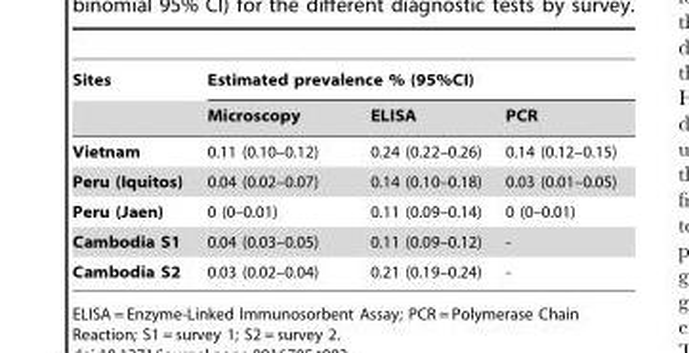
<table><thead><tr><td rowspan="2">Sites</td><td colspan="3">Estimated prevalence % (95%CI)</td></tr><tr><td>Microscopy</td><td>ELISA</td><td>PCR</td></tr></thead><tbody><tr><td>Vietnam</td><td>0.11 (0.10–0.12)</td><td>0.24 (0.22–0.26)</td><td>0.14 (0.12–0.15)</td></tr><tr><td>Peru (Iquitos)</td><td>0.04 (0.02–0.07)</td><td>0.14 (0.10–0.18)</td><td>0.03 (0.01–0.05)</td></tr><tr><td>Peru (Jaen)</td><td>0 (0–0.01)</td><td>0.11 (0.09–0.14)</td><td>0 (0–0.01)</td></tr><tr><td>Cambodia S1</td><td>0.04 (0.03–0.05)</td><td>0.11 (0.09–0.12)</td><td>-</td></tr><tr><td>Cambodia S2</td><td>0.03 (0.02–0.04)</td><td>0.21 (0.19–0.24)</td><td>-</td></tr></tbody></table>